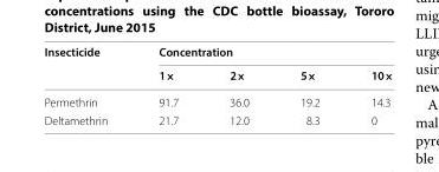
<table><thead><tr><td rowspan="2">Insecticide</td><td colspan="4">Concentration</td></tr><tr><td>1×</td><td>2×</td><td>5×</td><td>10×</td></tr></thead><tbody><tr><td>Permethrin</td><td>91.7</td><td>36.0</td><td>19.2</td><td>14.3</td></tr><tr><td>Deltamethrin</td><td>21.7</td><td>12.0</td><td>8.3</td><td>0</td></tr></tbody></table>